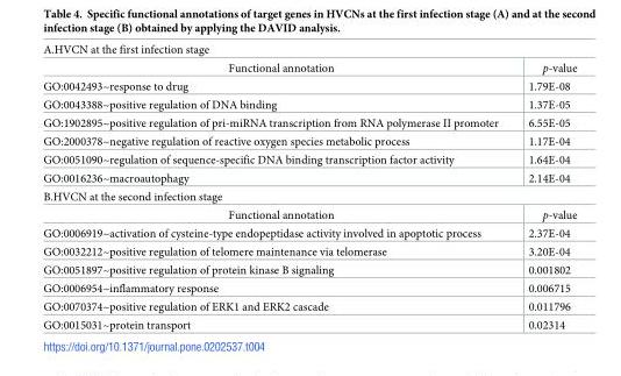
<table><tbody><tr><td colspan="2">A.HVCN at the first infection stage</td></tr><tr><td>Functional annotation</td><td>p-value</td></tr><tr><td>GO:0042493~response to drug</td><td>1.79E-08</td></tr><tr><td>GO:0043388~positive regulation of DNA binding</td><td>1.37E-05</td></tr><tr><td>GO:1902895~positive regulation of pri-miRNA transcription from RNA polymerase II promoter</td><td>6.55E-05</td></tr><tr><td>GO:2000378~negative regulation of reactive oxygen species metabolic process</td><td>1.17E-04</td></tr><tr><td>GO:0051090~regulation of sequence-specific DNA binding transcription factor activity</td><td>1.64E-04</td></tr><tr><td>GO:0016236~macroautophagy</td><td>2.14E-04</td></tr><tr><td colspan="2">B.HVCN at the second infection stage</td></tr><tr><td>Functional annotation</td><td>p-value</td></tr><tr><td>GO:0006919~activation of cysteine-type endopeptidase activity involved in apoptotic process</td><td>2.37E-04</td></tr><tr><td>GO:0032212~positive regulation of telomere maintenance via telomerase</td><td>3.20E-04</td></tr><tr><td>GO:0051897~positive regulation of protein kinase B signaling</td><td>0.001802</td></tr><tr><td>GO:0006954~inflammatory response</td><td>0.006715</td></tr><tr><td>GO:0070374~positive regulation of ERK1 and ERK2 cascade</td><td>0.011796</td></tr><tr><td>GO:0015031~protein transport</td><td>0.02314</td></tr></tbody></table>